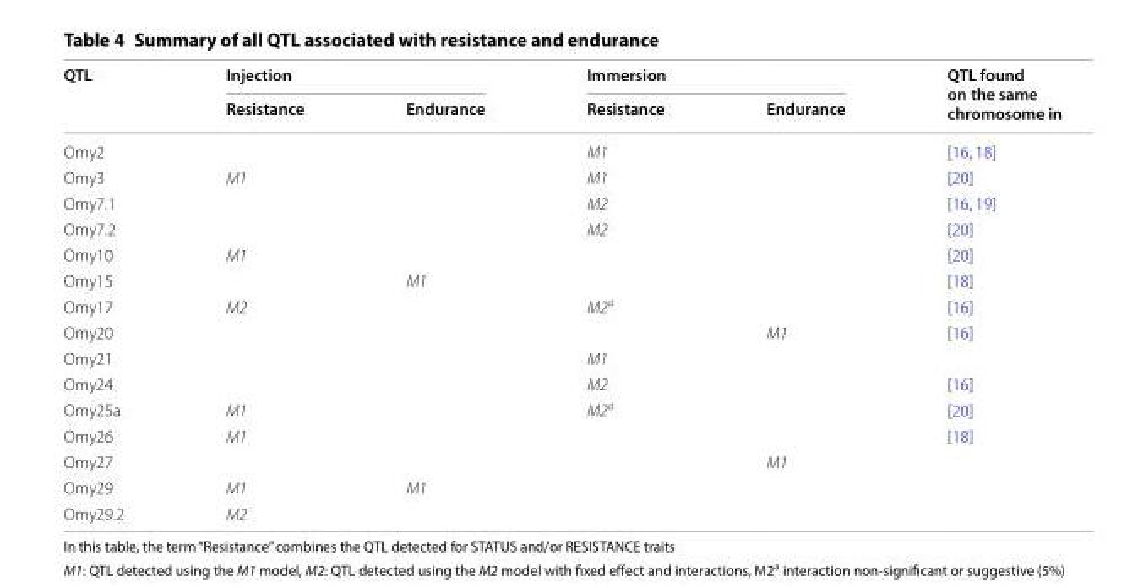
<table><thead><tr><td rowspan="2">QTL</td><td colspan="2">Injection</td><td colspan="2">Immersion</td><td rowspan="2">QTL found on the same chromosome in</td></tr><tr><td>Resistance</td><td>Endurance</td><td>Resistance</td><td>Endurance</td></tr></thead><tbody><tr><td>Omy2</td><td></td><td></td><td>M1</td><td></td><td>[16, 18]</td></tr><tr><td>Omy3</td><td>M1</td><td></td><td>M1</td><td></td><td>[20]</td></tr><tr><td>Omy7.1</td><td></td><td></td><td>M2</td><td></td><td>[16, 19]</td></tr><tr><td>Omy7.2</td><td></td><td></td><td>M2</td><td></td><td>[20]</td></tr><tr><td>Omy10</td><td>M1</td><td></td><td></td><td></td><td>[20]</td></tr><tr><td>Omy15</td><td></td><td>M1</td><td></td><td></td><td>[18]</td></tr><tr><td>Omy17</td><td>M2</td><td></td><td>M2<sup>a</sup></td><td></td><td>[16]</td></tr><tr><td>Omy20</td><td></td><td></td><td></td><td>M1</td><td>[16]</td></tr><tr><td>Omy21</td><td></td><td></td><td>M1</td><td></td><td></td></tr><tr><td>Omy24</td><td></td><td></td><td>M2</td><td></td><td>[16]</td></tr><tr><td>Omy25a</td><td>M1</td><td></td><td>M2<sup>a</sup></td><td></td><td>[20]</td></tr><tr><td>Omy26</td><td>M1</td><td></td><td></td><td></td><td>[18]</td></tr><tr><td>Omy27</td><td></td><td></td><td></td><td>M1</td><td></td></tr><tr><td>Omy29</td><td>M1</td><td>M1</td><td></td><td></td><td></td></tr><tr><td>Omy29.2</td><td>M2</td><td></td><td></td><td></td><td></td></tr></tbody></table>